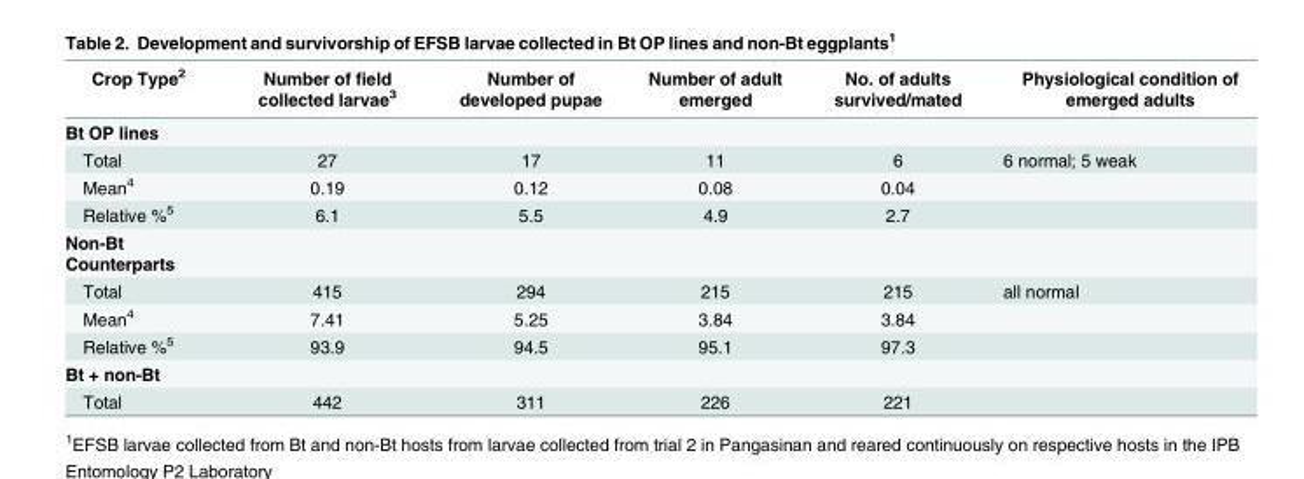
<table><thead><tr><td>Crop Type<sup>2</sup></td><td>Number of field collected larvae<sup>3</sup></td><td>Number of developed pupae</td><td>Number of adult emerged</td><td>No. of adults survived/mated</td><td>Physiological condition of emerged adults</td></tr></thead><tbody><tr><td colspan="6">Bt OP lines</td></tr><tr><td>Total</td><td>27</td><td>17</td><td>11</td><td>6</td><td>6 normal; 5 weak</td></tr><tr><td>Mean<sup>4</sup></td><td>0.19</td><td>0.12</td><td>0.08</td><td>0.04</td><td></td></tr><tr><td>Relative %<sup>5</sup></td><td>6.1</td><td>5.5</td><td>4.9</td><td>2.7</td><td></td></tr><tr><td colspan="6">Non-Bt Counterparts</td></tr><tr><td>Total</td><td>415</td><td>294</td><td>215</td><td>215</td><td>all normal</td></tr><tr><td>Mean<sup>4</sup></td><td>7.41</td><td>5.25</td><td>3.84</td><td>3.84</td><td></td></tr><tr><td>Relative %<sup>5</sup></td><td>93.9</td><td>94.5</td><td>95.1</td><td>97.3</td><td></td></tr><tr><td colspan="6">Bt + non-Bt</td></tr><tr><td>Total</td><td>442</td><td>311</td><td>226</td><td>221</td><td></td></tr></tbody></table>